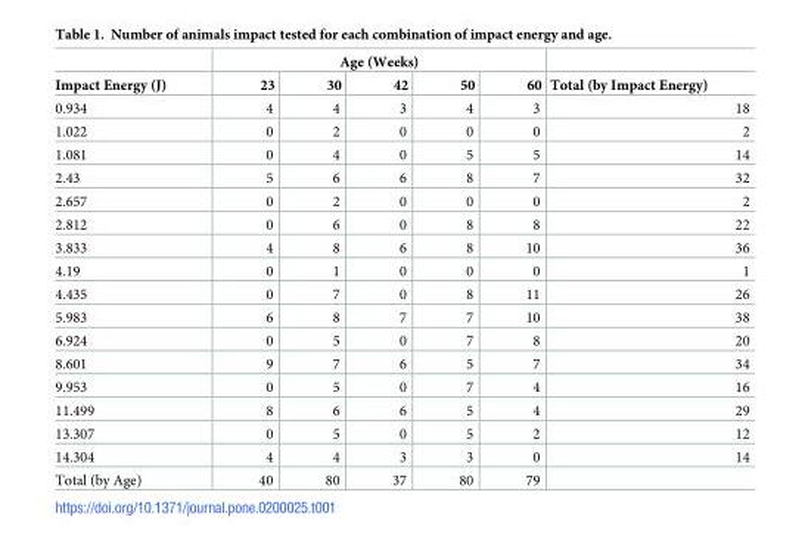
<table><thead><tr><td rowspan="2">Impact Energy (J)</td><td colspan="5">Age (Weeks)</td><td rowspan="2">Total (by Impact Energy)</td></tr><tr><td>23</td><td>30</td><td>42</td><td>50</td><td>60</td></tr></thead><tbody><tr><td>0.934</td><td>4</td><td>4</td><td>3</td><td>4</td><td>3</td><td>18</td></tr><tr><td>1.022</td><td>0</td><td>2</td><td>0</td><td>0</td><td>0</td><td>2</td></tr><tr><td>1.081</td><td>0</td><td>4</td><td>0</td><td>5</td><td>5</td><td>14</td></tr><tr><td>2.43</td><td>5</td><td>6</td><td>6</td><td>8</td><td>7</td><td>32</td></tr><tr><td>2.657</td><td>0</td><td>2</td><td>0</td><td>0</td><td>0</td><td>2</td></tr><tr><td>2.812</td><td>0</td><td>6</td><td>0</td><td>8</td><td>8</td><td>22</td></tr><tr><td>3.833</td><td>4</td><td>8</td><td>6</td><td>8</td><td>10</td><td>36</td></tr><tr><td>4.19</td><td>0</td><td>1</td><td>0</td><td>0</td><td>0</td><td>1</td></tr><tr><td>4.435</td><td>0</td><td>7</td><td>0</td><td>8</td><td>11</td><td>26</td></tr><tr><td>5.983</td><td>6</td><td>8</td><td>7</td><td>7</td><td>10</td><td>38</td></tr><tr><td>6.924</td><td>0</td><td>5</td><td>0</td><td>7</td><td>8</td><td>20</td></tr><tr><td>8.601</td><td>9</td><td>7</td><td>6</td><td>5</td><td>7</td><td>34</td></tr><tr><td>9.953</td><td>0</td><td>5</td><td>0</td><td>7</td><td>4</td><td>16</td></tr><tr><td>11.499</td><td>8</td><td>6</td><td>6</td><td>5</td><td>4</td><td>29</td></tr><tr><td>13.307</td><td>0</td><td>5</td><td>0</td><td>5</td><td>2</td><td>12</td></tr><tr><td>14.304</td><td>4</td><td>4</td><td>3</td><td>3</td><td>0</td><td>14</td></tr><tr><td>Total (by Age)</td><td>40</td><td>80</td><td>37</td><td>80</td><td>79</td><td></td></tr></tbody></table>